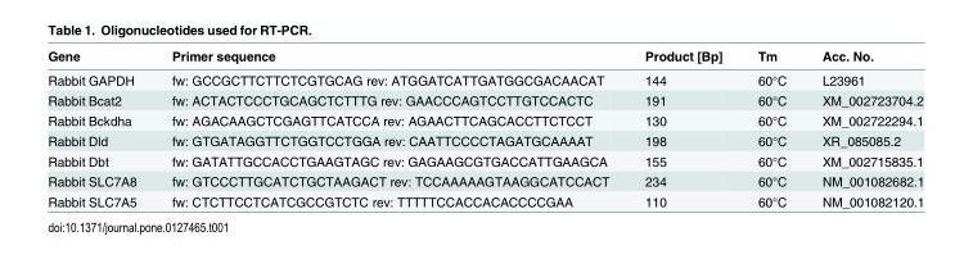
<table><thead><tr><td>Gene</td><td>Primer sequence</td><td>Product [Bp]</td><td>Tm</td><td>Acc. No.</td></tr></thead><tbody><tr><td>Rabbit GAPDH</td><td>fw: GCCGCTTCTTCTCGTGCAG rev: ATGGATCATTGATGGCGACAACAT</td><td>144</td><td>60°C</td><td>L23961</td></tr><tr><td>Rabbit Bcat2</td><td>fw: ACTACTCCCTGCAGCTCTTTG rev: GAACCCAGTCCTTGTCCACTC</td><td>191</td><td>60°C</td><td>XM_002723704.2</td></tr><tr><td>Rabbit Bckdha</td><td>fw: AGACAAGCTCGAGTTCATCCA rev: AGAACTTCAGCACCTTCTCCT</td><td>130</td><td>60°C</td><td>XM_002722294.1</td></tr><tr><td>Rabbit Dld</td><td>fw: GTGATAGGTTCTGGTCCTGGA rev: CAATTCCCCTAGATGCAAAAT</td><td>198</td><td>60°C</td><td>XR_085085.2</td></tr><tr><td>Rabbit Dbt</td><td>fw: GATATTGCCACCTGAAGTAGC rev: GAGAAGCGTGACCATTGAAGCA</td><td>155</td><td>60°C</td><td>XM_002715835.1</td></tr><tr><td>Rabbit SLC7A8</td><td>fw: GTCCCTTGCATCTGCTAAGACT rev: TCCAAAAAGTAAGGCATCCACT</td><td>234</td><td>60°C</td><td>NM_001082682.1</td></tr><tr><td>Rabbit SLC7A5</td><td>fw: CTCTTCCTCATCGCCGTCTC rev: TTTTTCCACCACACCCCGAA</td><td>110</td><td>60°C</td><td>NM_001082120.1</td></tr></tbody></table>